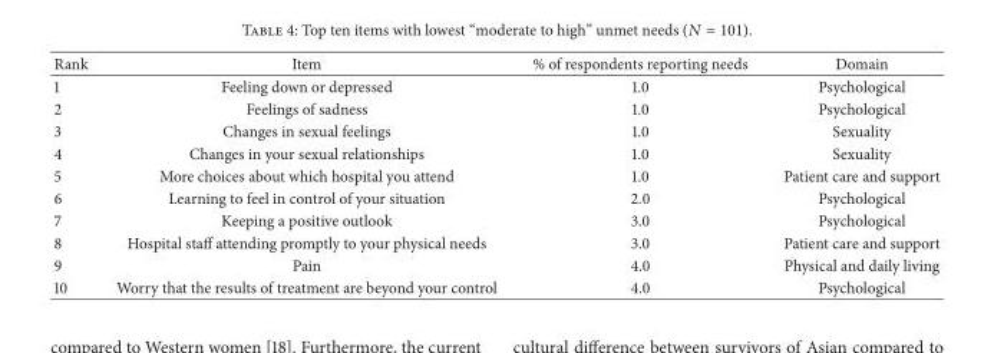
<table><thead><tr><td>Rank</td><td>Item</td><td>% of respondents reporting needs</td><td>Domain</td></tr></thead><tbody><tr><td>1</td><td>Feeling down or depressed</td><td>1.0</td><td>Psychological</td></tr><tr><td>2</td><td>Feelings of sadness</td><td>1.0</td><td>Psychological</td></tr><tr><td>3</td><td>Changes in sexual feelings</td><td>1.0</td><td>Sexuality</td></tr><tr><td>4</td><td>Changes in your sexual relationships</td><td>1.0</td><td>Sexuality</td></tr><tr><td>5</td><td>More choices about which hospital you attend</td><td>1.0</td><td>Patient care and support</td></tr><tr><td>6</td><td>Learning to feel in control of your situation</td><td>2.0</td><td>Psychological</td></tr><tr><td>7</td><td>Keeping a positive outlook</td><td>3.0</td><td>Psychological</td></tr><tr><td>8</td><td>Hospital staff attending promptly to your physical needs</td><td>3.0</td><td>Patient care and support</td></tr><tr><td>9</td><td>Pain</td><td>4.0</td><td>Physical and daily living</td></tr><tr><td>10</td><td>Worry that the results of treatment are beyond your control</td><td>4.0</td><td>Psychological</td></tr></tbody></table>